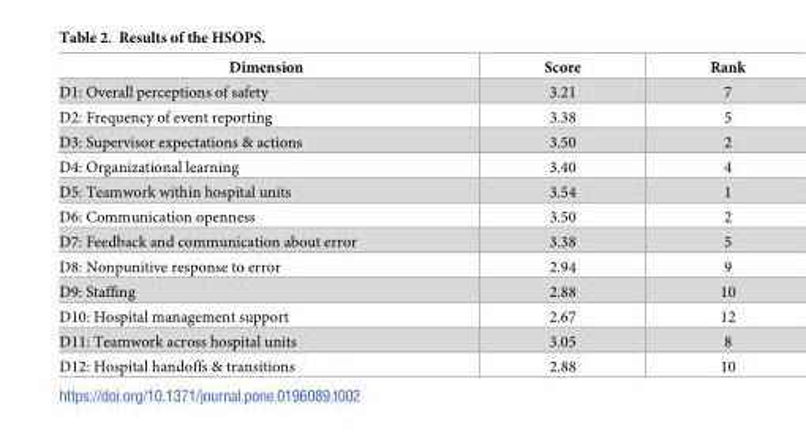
<table><thead><tr><td>Dimension</td><td>Score</td><td>Rank</td></tr></thead><tbody><tr><td>D1: Overall perceptions of safety</td><td>3.21</td><td>7</td></tr><tr><td>D2: Frequency of event reporting</td><td>3.38</td><td>5</td></tr><tr><td>D3: Supervisor expectations &amp; actions</td><td>3.50</td><td>2</td></tr><tr><td>D4: Organizational learning</td><td>3.40</td><td>4</td></tr><tr><td>D5: Teamwork within hospital units</td><td>3.54</td><td>1</td></tr><tr><td>D6: Communication openness</td><td>3.50</td><td>2</td></tr><tr><td>D7: Feedback and communication about error</td><td>3.38</td><td>5</td></tr><tr><td>D8: Nonpunitive response to error</td><td>2.94</td><td>9</td></tr><tr><td>D9: Staffing</td><td>2.88</td><td>10</td></tr><tr><td>D10: Hospital management support</td><td>2.67</td><td>12</td></tr><tr><td>D11: Teamwork across hospital units</td><td>3.05</td><td>8</td></tr><tr><td>D12: Hospital handoffs &amp; transitions</td><td>2.88</td><td>10</td></tr></tbody></table>